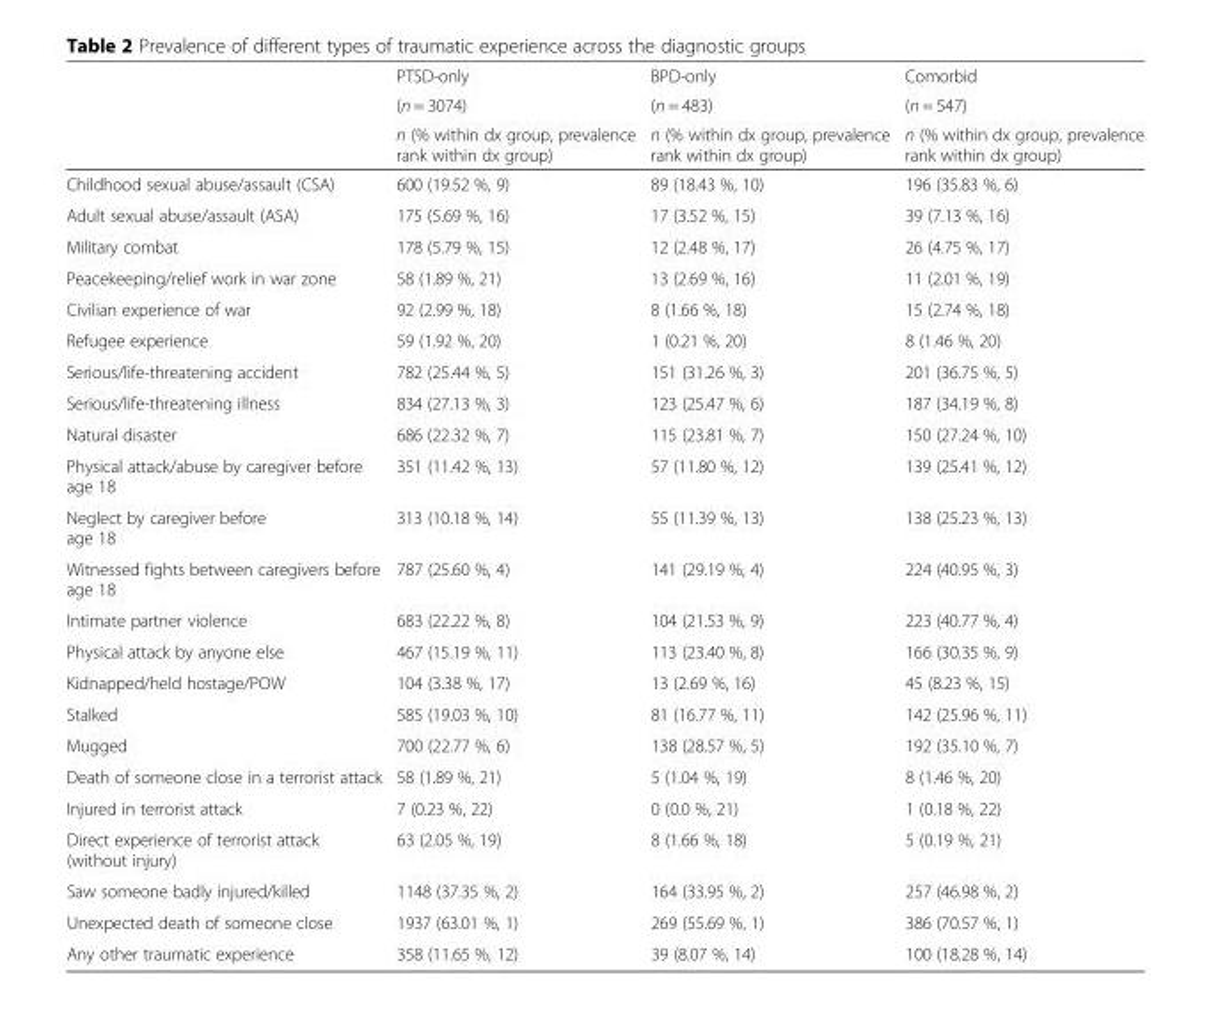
<table><thead><tr><td rowspan="3"></td><td rowspan="3">PTSD-only (n = 3074) n (% within dx group, prevalence rank within dx group)</td><td rowspan="3">BPD-only (n = 483) n (% within dx group, prevalence rank within dx group)</td><td rowspan="3">Comorbid (n = 547) n (% within dx group, prevalence rank within dx group)</td></tr><tr></tr><tr></tr></thead><tbody><tr><td>Childhood sexual abuse/assault (CSA)</td><td>600 (19.52 %, 9)</td><td>89 (18.43 %, 10)</td><td>196 (35.83 %, 6)</td></tr><tr><td>Adult sexual abuse/assault (ASA)</td><td>175 (5.69 %, 16)</td><td>17 (3.52 %, 15)</td><td>39 (7.13 %, 16)</td></tr><tr><td>Military combat</td><td>178 (5.79 %, 15)</td><td>12 (2.48 %, 17)</td><td>26 (4.75 %, 17)</td></tr><tr><td>Peacekeeping/relief work in war zone</td><td>58 (1.89 %, 21)</td><td>13 (2.69 %, 16)</td><td>11 (2.01 %, 19)</td></tr><tr><td>Civilian experience of war</td><td>92 (2.99 %, 18)</td><td>8 (1.66 %, 18)</td><td>15 (2.74 %, 18)</td></tr><tr><td>Refugee experience</td><td>59 (1.92 %, 20)</td><td>1 (0.21 %, 20)</td><td>8 (1.46 %, 20)</td></tr><tr><td>Serious/life-threatening accident</td><td>782 (25.44 %, 5)</td><td>151 (31.26 %, 3)</td><td>201 (36.75 %, 5)</td></tr><tr><td>Serious/life-threatening illness</td><td>834 (27.13 %, 3)</td><td>123 (25.47 %, 6)</td><td>187 (34.19 %, 8)</td></tr><tr><td>Natural disaster</td><td>686 (22.32 %, 7)</td><td>115 (23.81 %, 7)</td><td>150 (27.24 %, 10)</td></tr><tr><td>Physical attack/abuse by caregiver before age 18</td><td>351 (11.42 %, 13)</td><td>57 (11.80 %, 12)</td><td>139 (25.41 %, 12)</td></tr><tr><td>Neglect by caregiver before age 18</td><td>313 (10.18 %, 14)</td><td>55 (11.39 %, 13)</td><td>138 (25.23 %, 13)</td></tr><tr><td>Witnessed fights between caregivers before age 18</td><td>787 (25.60 %, 4)</td><td>141 (29.19 %, 4)</td><td>224 (40.95 %, 3)</td></tr><tr><td>Intimate partner violence</td><td>683 (22.22 %, 8)</td><td>104 (21.53 %, 9)</td><td>223 (40.77 %, 4)</td></tr><tr><td>Physical attack by anyone else</td><td>467 (15.19 %, 11)</td><td>113 (23.40 %, 8)</td><td>166 (30.35 %, 9)</td></tr><tr><td>Kidnapped/held hostage/POW</td><td>104 (3.38 %, 17)</td><td>13 (2.69 %, 16)</td><td>45 (8.23 %, 15)</td></tr><tr><td>Stalked</td><td>585 (19.03 %, 10)</td><td>81 (16.77 %, 11)</td><td>142 (25.96 %, 11)</td></tr><tr><td>Mugged</td><td>700 (22.77 %, 6)</td><td>138 (28.57 %, 5)</td><td>192 (35.10 %, 7)</td></tr><tr><td>Death of someone close in a terrorist attack</td><td>58 (1.89 %, 21)</td><td>5 (1.04 %, 19)</td><td>8 (1.46 %, 20)</td></tr><tr><td>Injured in terrorist attack</td><td>7 (0.23 %, 22)</td><td>0 (0.0 %, 21)</td><td>1 (0.18 %, 22)</td></tr><tr><td>Direct experience of terrorist attack (without injury)</td><td>63 (2.05 %, 19)</td><td>8 (1.66 %, 18)</td><td>5 (0.19 %, 21)</td></tr><tr><td>Saw someone badly injured/killed</td><td>1148 (37.35 %, 2)</td><td>164 (33.95 %, 2)</td><td>257 (46.98 %, 2)</td></tr><tr><td>Unexpected death of someone close</td><td>1937 (63.01 %, 1)</td><td>269 (55.69 %, 1)</td><td>386 (70.57 %, 1)</td></tr><tr><td>Any other traumatic experience</td><td>358 (11.65 %, 12)</td><td>39 (8.07 %, 14)</td><td>100 (18.28 %, 14)</td></tr></tbody></table>